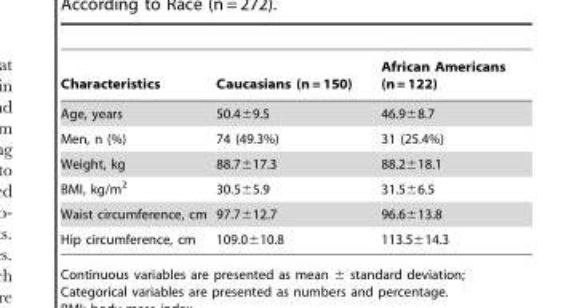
<table><thead><tr><td>Characteristics</td><td>Caucasians (n = 150)</td><td>African Americans (n = 122)</td></tr></thead><tbody><tr><td>Age, years</td><td>50.4±9.5</td><td>46.9±8.7</td></tr><tr><td>Men, n (%)</td><td>74 (49.3%)</td><td>31 (25.4%)</td></tr><tr><td>Weight, kg</td><td>88.7±17.3</td><td>88.2±18.1</td></tr><tr><td>BMI, kg/m<sup>2</sup></td><td>30.5±5.9</td><td>31.5±6.5</td></tr><tr><td>Waist circumference, cm</td><td>97.7±12.7</td><td>96.6±13.8</td></tr><tr><td>Hip circumference, cm</td><td>109.0±10.8</td><td>113.5±14.3</td></tr></tbody></table>